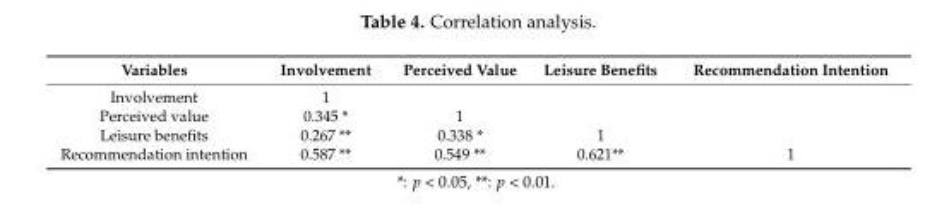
<table><thead><tr><td>Variables</td><td>Involvement</td><td>Perceived Value</td><td>Leisure Benefits</td><td>Recommendation Intention</td></tr></thead><tbody><tr><td>Involvement</td><td>1</td><td></td><td></td><td></td></tr><tr><td>Perceived value</td><td>0.345 *</td><td>1</td><td></td><td></td></tr><tr><td>Leisure benefits</td><td>0.267 **</td><td>0.338 *</td><td>1</td><td></td></tr><tr><td>Recommendation intention</td><td>0.587 **</td><td>0.549 **</td><td>0.621**</td><td>1</td></tr></tbody></table>